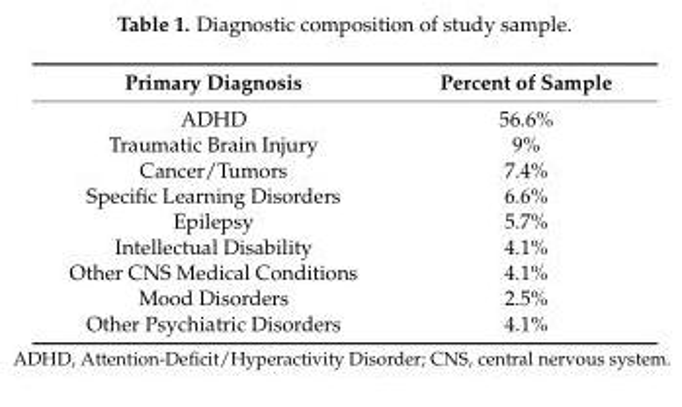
<table><thead><tr><td>Primary Diagnosis</td><td>Percent of Sample</td></tr></thead><tbody><tr><td>ADHD</td><td>56.6%</td></tr><tr><td>Traumatic Brain Injury</td><td>9%</td></tr><tr><td>Cancer/Tumors</td><td>7.4%</td></tr><tr><td>Specific Learning Disorders</td><td>6.6%</td></tr><tr><td>Epilepsy</td><td>5.7%</td></tr><tr><td>Intellectual Disability</td><td>4.1%</td></tr><tr><td>Other CNS Medical Conditions</td><td>4.1%</td></tr><tr><td>Mood Disorders</td><td>2.5%</td></tr><tr><td>Other Psychiatric Disorders</td><td>4.1%</td></tr></tbody></table>